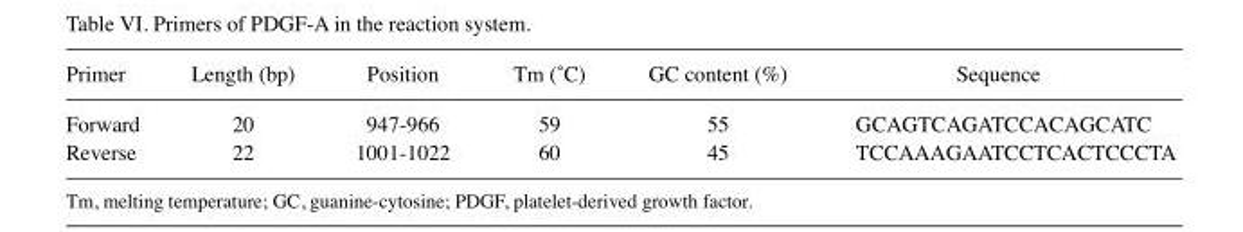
<table><thead><tr><td>Primer</td><td>Length (bp)</td><td>Position</td><td>Tm (˚C)</td><td>GC content (%)</td><td>Sequence</td></tr></thead><tbody><tr><td>Forward</td><td>20</td><td>947-966</td><td>59</td><td>55</td><td>GCAGTCAGATCCACAGCATC</td></tr><tr><td>Reverse</td><td>22</td><td>1001-1022</td><td>60</td><td>45</td><td>TCCAAAGAATCCTCACTCCCTA</td></tr></tbody></table>